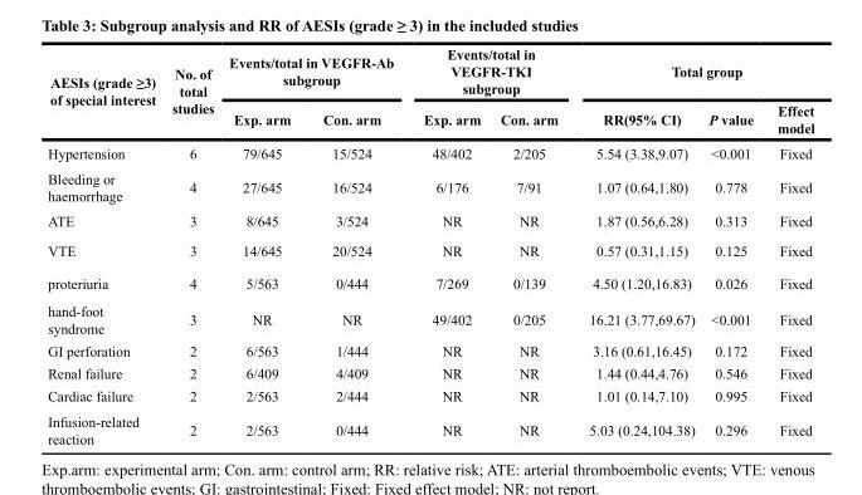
<table><thead><tr><td rowspan="2">AESIs (grade ≥3) of special interest</td><td rowspan="2">No. of total studies</td><td colspan="2">Events/total in VEGFR-Ab subgroup</td><td colspan="2">Events/total in VEGFR-TKI subgroup</td><td colspan="3">Total group</td></tr><tr><td>Exp. arm</td><td>Con. arm</td><td>Exp. arm</td><td>Con. arm</td><td>RR(95% CI)</td><td>P value</td><td>Effect model</td></tr></thead><tbody><tr><td>Hypertension</td><td>6</td><td>79/645</td><td>15/524</td><td>48/402</td><td>2/205</td><td>5.54 (3.38,9.07)</td><td>&lt;0.001</td><td>Fixed</td></tr><tr><td>Bleeding or haemorrhage</td><td>4</td><td>27/645</td><td>16/524</td><td>6/176</td><td>7/91</td><td>1.07 (0.64,1.80)</td><td>0.778</td><td>Fixed</td></tr><tr><td>ATE</td><td>3</td><td>8/645</td><td>3/524</td><td>NR</td><td>NR</td><td>1.87 (0.56,6.28)</td><td>0.313</td><td>Fixed</td></tr><tr><td>VTE</td><td>3</td><td>14/645</td><td>20/524</td><td>NR</td><td>NR</td><td>0.57 (0.31,1.15)</td><td>0.125</td><td>Fixed</td></tr><tr><td>proteriuria</td><td>4</td><td>5/563</td><td>0/444</td><td>7/269</td><td>0/139</td><td>4.50 (1.20,16.83)</td><td>0.026</td><td>Fixed</td></tr><tr><td>hand-foot syndrome</td><td>3</td><td>NR</td><td>NR</td><td>49/402</td><td>0/205</td><td>16.21 (3.77,69.67)</td><td>&lt;0.001</td><td>Fixed</td></tr><tr><td>GI perforation</td><td>2</td><td>6/563</td><td>1/444</td><td>NR</td><td>NR</td><td>3.16 (0.61,16.45)</td><td>0.172</td><td>Fixed</td></tr><tr><td>Renal failure</td><td>2</td><td>6/409</td><td>4/409</td><td>NR</td><td>NR</td><td>1.44 (0.44,4.76)</td><td>0.546</td><td>Fixed</td></tr><tr><td>Cardiac failure</td><td>2</td><td>2/563</td><td>2/444</td><td>NR</td><td>NR</td><td>1.01 (0.14,7.10)</td><td>0.995</td><td>Fixed</td></tr><tr><td>Infusion-related reaction</td><td>2</td><td>2/563</td><td>0/444</td><td>NR</td><td>NR</td><td>5.03 (0.24,104.38)</td><td>0.296</td><td>Fixed</td></tr></tbody></table>